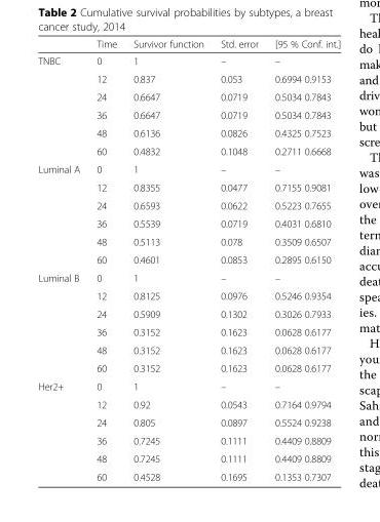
<table><thead><tr><td></td><td>Time</td><td>Survivor function</td><td>Std. error</td><td>[95 % Conf. int.]</td></tr></thead><tbody><tr><td rowspan="6">TNBC</td><td>0</td><td>1</td><td>–</td><td>–</td></tr><tr><td>12</td><td>0.837</td><td>0.053</td><td>0.6994 0.9153</td></tr><tr><td>24</td><td>0.6647</td><td>0.0719</td><td>0.5034 0.7843</td></tr><tr><td>36</td><td>0.6647</td><td>0.0719</td><td>0.5034 0.7843</td></tr><tr><td>48</td><td>0.6136</td><td>0.0826</td><td>0.4325 0.7523</td></tr><tr><td>60</td><td>0.4832</td><td>0.1048</td><td>0.2711 0.6668</td></tr><tr><td rowspan="6">Luminal A</td><td>0</td><td>1</td><td>–</td><td>–</td></tr><tr><td>12</td><td>0.8355</td><td>0.0477</td><td>0.7155 0.9081</td></tr><tr><td>24</td><td>0.6593</td><td>0.0622</td><td>0.5223 0.7655</td></tr><tr><td>36</td><td>0.5539</td><td>0.0719</td><td>0.4031 0.6810</td></tr><tr><td>48</td><td>0.5113</td><td>0.078</td><td>0.3509 0.6507</td></tr><tr><td>60</td><td>0.4601</td><td>0.0853</td><td>0.2895 0.6150</td></tr><tr><td rowspan="6">Luminal B</td><td>0</td><td>1</td><td>–</td><td>–</td></tr><tr><td>12</td><td>0.8125</td><td>0.0976</td><td>0.5246 0.9354</td></tr><tr><td>24</td><td>0.5909</td><td>0.1302</td><td>0.3026 0.7933</td></tr><tr><td>36</td><td>0.3152</td><td>0.1623</td><td>0.0628 0.6177</td></tr><tr><td>48</td><td>0.3152</td><td>0.1623</td><td>0.0628 0.6177</td></tr><tr><td>60</td><td>0.3152</td><td>0.1623</td><td>0.0628 0.6177</td></tr><tr><td rowspan="6">Her2+</td><td>0</td><td>1</td><td>–</td><td>–</td></tr><tr><td>12</td><td>0.92</td><td>0.0543</td><td>0.7164 0.9794</td></tr><tr><td>24</td><td>0.805</td><td>0.0897</td><td>0.5524 0.9238</td></tr><tr><td>36</td><td>0.7245</td><td>0.1111</td><td>0.4409 0.8809</td></tr><tr><td>48</td><td>0.7245</td><td>0.1111</td><td>0.4409 0.8809</td></tr><tr><td>60</td><td>0.4528</td><td>0.1695</td><td>0.1353 0.7307</td></tr></tbody></table>